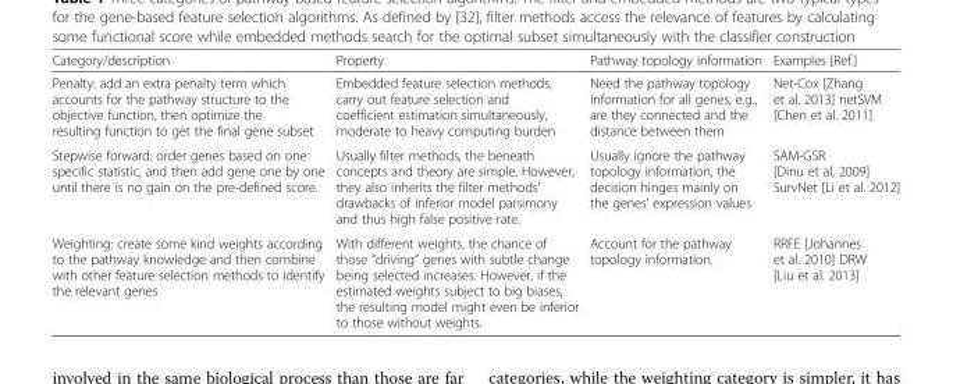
<table><thead><tr><td>Category/description</td><td>Property</td><td>Pathway topology information</td><td>Examples [Ref.]</td></tr></thead><tbody><tr><td>Penalty: add an extra penalty term which accounts for the pathway structure to the objective function, then optimize the resulting function to get the final gene subset</td><td>Embedded feature selection methods, carry out feature selection and coefficient estimation simultaneously, moderate to heavy computing burden</td><td>Need the pathway topology information for all genes, e.g., are they connected and the distance between them</td><td>Net-Cox [Zhang et al. 2013] netSVM [Chen et al. 2011]</td></tr><tr><td>Stepwise forward: order genes based on one specific statistic, and then add gene one by one until there is no gain on the pre-defined score.</td><td>Usually filter methods, the beneath concepts and theory are simple. However, they also inherits the filter methods’ drawbacks of inferior model parsimony and thus high false positive rate.</td><td>Usually ignore the pathway topology information, the decision hinges mainly on the genes’ expression values</td><td>SAM-GSR [Dinu et al, 2009] SurvNet [Li et al. 2012]</td></tr><tr><td>Weighting: create some kind weights according to the pathway knowledge and then combine with other feature selection methods to identify the relevant genes</td><td>With different weights, the chance of those “driving” genes with subtle change being selected increases. However, if the estimated weights subject to big biases, the resulting model might even be inferior to those without weights.</td><td>Account for the pathway topology information.</td><td>RRFE [Johannes et al. 2010] DRW [Liu et al. 2013]</td></tr></tbody></table>